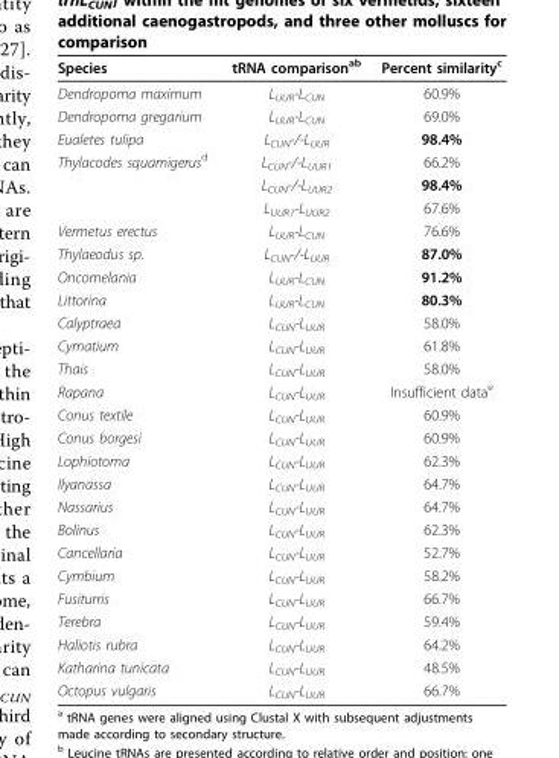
<table><thead><tr><td>Species</td><td>tRNA comparison<sup>ab</sup></td><td>Percent similarity<sup>c</sup></td></tr></thead><tbody><tr><td>Dendropoma maximum</td><td>L<sub>UUR</sub>-L<sub>CUN</sub></td><td>60.9%</td></tr><tr><td>Dendropoma gregarium</td><td>L<sub>UUR</sub>-L<sub>CUN</sub></td><td>69.0%</td></tr><tr><td>Eualetes tulipa</td><td>L<sub>CUN</sub>-/-L<sub>UUR</sub></td><td>98.4%</td></tr><tr><td rowspan="3">Thylacodes squamigerus<sup>d</sup></td><td>L<sub>CUN</sub>-/-L<sub>UUR1</sub></td><td>66.2%</td></tr><tr><td>L<sub>CUN</sub>-/-L<sub>UUR2</sub></td><td>98.4%</td></tr><tr><td>L<sub>UUR1</sub>-L<sub>UUR2</sub></td><td>67.6%</td></tr><tr><td>Vermetus erectus</td><td>L<sub>UUR</sub>-L<sub>CUN</sub></td><td>76.6%</td></tr><tr><td>Thylaeodus sp.</td><td>L<sub>CUN</sub>-/-L<sub>UUR</sub></td><td>87.0%</td></tr><tr><td>Oncomelania</td><td>L<sub>UUR</sub>-L<sub>CUN</sub></td><td>91.2%</td></tr><tr><td>Littorina</td><td>L<sub>UUR</sub>-L<sub>CUN</sub></td><td>80.3%</td></tr><tr><td>Calyptraea</td><td>L<sub>CUN</sub>-L<sub>UUR</sub></td><td>58.0%</td></tr><tr><td>Cymatium</td><td>L<sub>CUN</sub>-L<sub>UUR</sub></td><td>61.8%</td></tr><tr><td>Thais</td><td>L<sub>CUN</sub>-L<sub>UUR</sub></td><td>58.0%</td></tr><tr><td>Rapana</td><td>L<sub>CUN</sub>-L<sub>UUR</sub></td><td>Insufficient data<sup>e</sup></td></tr><tr><td>Conus textile</td><td>L<sub>CUN</sub>-L<sub>UUR</sub></td><td>60.9%</td></tr><tr><td>Conus borgesi</td><td>L<sub>CUN</sub>-L<sub>UUR</sub></td><td>60.9%</td></tr><tr><td>Lophiotoma</td><td>L<sub>CUN</sub>-L<sub>UUR</sub></td><td>62.3%</td></tr><tr><td>Ilyanassa</td><td>L<sub>CUN</sub>-L<sub>UUR</sub></td><td>64.7%</td></tr><tr><td>Nassarius</td><td>L<sub>CUN</sub>-L<sub>UUR</sub></td><td>64.7%</td></tr><tr><td>Bolinus</td><td>L<sub>CUN</sub>-L<sub>UUR</sub></td><td>62.3%</td></tr><tr><td>Cancellaria</td><td>L<sub>CUN</sub>-L<sub>UUR</sub></td><td>52.7%</td></tr><tr><td>Cymbium</td><td>L<sub>CUN</sub>-L<sub>UUR</sub></td><td>58.2%</td></tr><tr><td>Fusiturris</td><td>L<sub>CUN</sub>-L<sub>UUR</sub></td><td>66.7%</td></tr><tr><td>Terebra</td><td>L<sub>CUN</sub>-L<sub>UUR</sub></td><td>59.4%</td></tr><tr><td>Haliotis rubra</td><td>L<sub>CUN</sub>-L<sub>UUR</sub></td><td>64.2%</td></tr><tr><td>Katharina tunicata</td><td>L<sub>CUN</sub>-L<sub>UUR</sub></td><td>48.5%</td></tr><tr><td>Octopus vulgaris</td><td>L<sub>CUN</sub>-L<sub>UUR</sub></td><td>66.7%</td></tr></tbody></table>